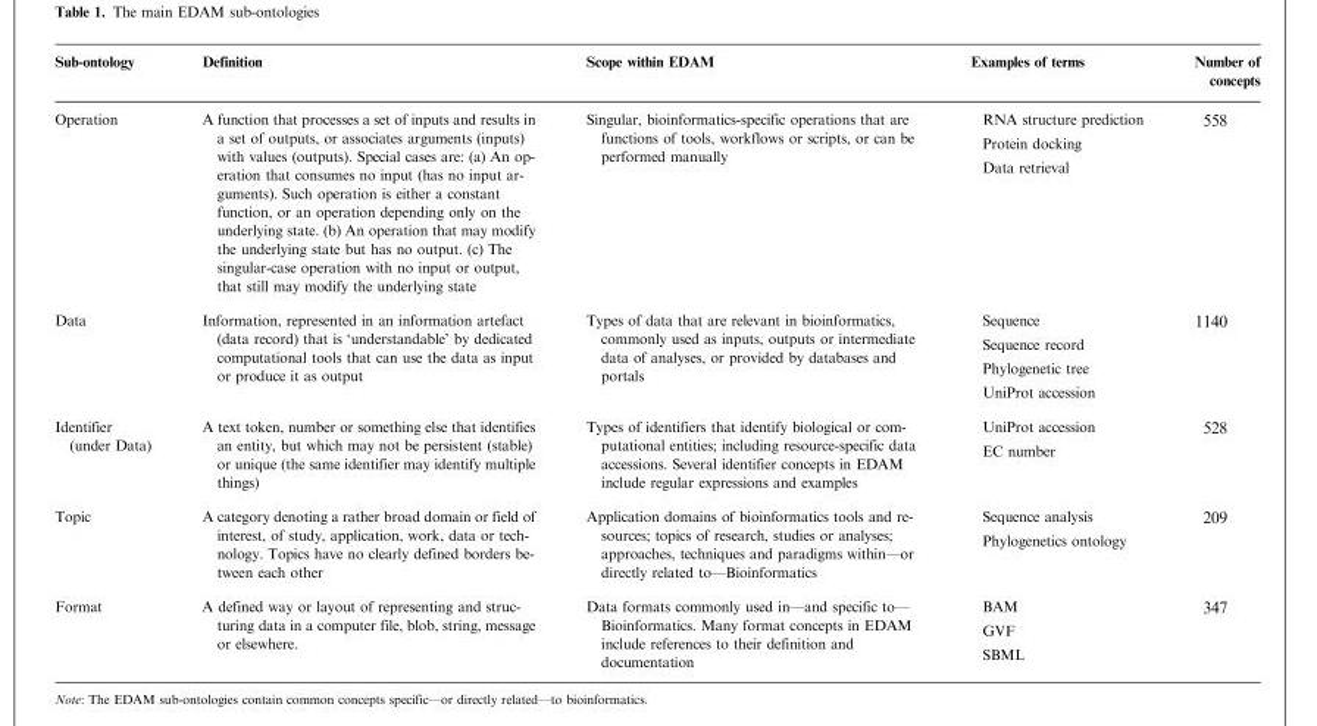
<table><thead><tr><td>Sub-ontology</td><td>Definition</td><td>Scope within EDAM</td><td>Examples of terms</td><td>Number of concepts</td></tr></thead><tbody><tr><td>Operation</td><td>A function that processes a set of inputs and results in a set of outputs, or associates arguments (inputs) with values (outputs). Special cases are: (a) An op- eration that consumes no input (has no input ar- guments). Such operation is either a constant function, or an operation depending only on the underlying state. (b) An operation that may modify the underlying state but has no output. (c) The singular-case operation with no input or output, that still may modify the underlying state</td><td>Singular, bioinformatics-specific operations that are functions of tools, workflows or scripts, or can be performed manually</td><td>RNA structure prediction Protein docking Data retrieval</td><td>558</td></tr><tr><td>Data</td><td>Information, represented in an information artefact (data record) that is ‘understandable’ by dedicated computational tools that can use the data as input or produce it as output</td><td>Types of data that are relevant in bioinformatics, commonly used as inputs, outputs or intermediate data of analyses, or provided by databases and portals</td><td>Sequence Sequence record Phylogenetic tree UniProt accession</td><td>1140</td></tr><tr><td>Identifier (under Data)</td><td>A text token, number or something else that identifies an entity, but which may not be persistent (stable) or unique (the same identifier may identify multiple things)</td><td>Types of identifiers that identify biological or com- putational entities; including resource-specific data accessions. Several identifier concepts in EDAM include regular expressions and examples</td><td>UniProt accession EC number</td><td>528</td></tr><tr><td>Topic</td><td>A category denoting a rather broad domain or field of interest, of study, application, work, data or tech- nology. Topics have no clearly defined borders be- tween each other</td><td>Application domains of bioinformatics tools and re- sources; topics of research, studies or analyses; approaches, techniques and paradigms within—or directly related to—Bioinformatics</td><td>Sequence analysis Phylogenetics ontology</td><td>209</td></tr><tr><td>Format</td><td>A defined way or layout of representing and struc- turing data in a computer file, blob, string, message or elsewhere.</td><td>Data formats commonly used in—and specific to— Bioinformatics. Many format concepts in EDAM include references to their definition and documentation</td><td>BAM GVF SBML</td><td>347</td></tr></tbody></table>